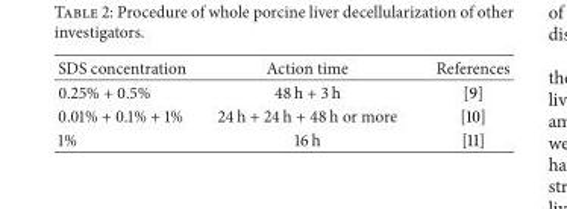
<table><thead><tr><td>SDS concentration</td><td>Action time</td><td>References</td></tr></thead><tbody><tr><td>0.25% + 0.5%</td><td>48 h + 3 h</td><td>[9]</td></tr><tr><td>0.01% + 0.1% + 1%</td><td>24 h + 24 h + 48 h or more</td><td>[10]</td></tr><tr><td>1%</td><td>16 h</td><td>[11]</td></tr></tbody></table>